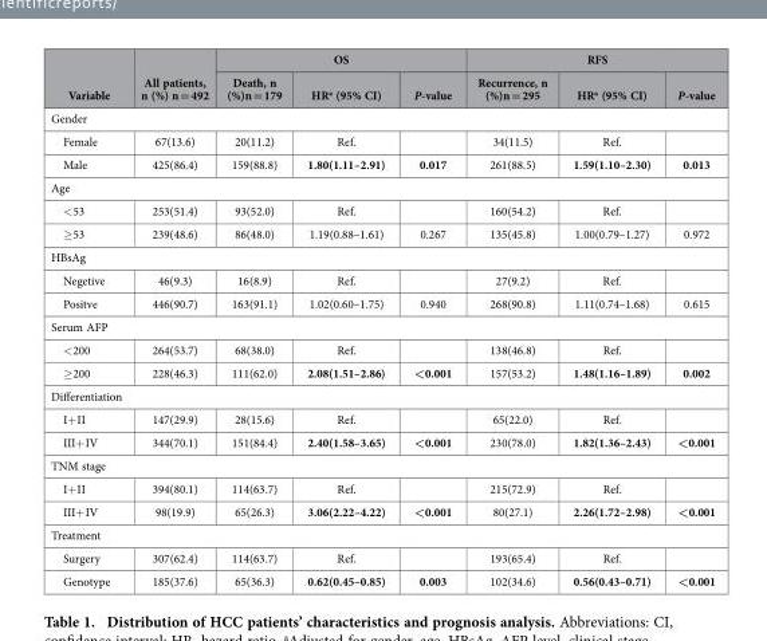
<table><thead><tr><td rowspan="2">Variable</td><td rowspan="2">All patients, n (%) n = 492</td><td colspan="3">OS</td><td colspan="3">RFS</td></tr><tr><td>Death, n (%)n = 179</td><td>HR<sup>a</sup> (95% CI)</td><td>P-value</td><td>Recurrence, n (%)n = 295</td><td>HR<sup>a</sup> (95% CI)</td><td>P-value</td></tr></thead><tbody><tr><td colspan="8">Gender</td></tr><tr><td>Female</td><td>67(13.6)</td><td>20(11.2)</td><td>Ref.</td><td></td><td>34(11.5)</td><td>Ref.</td><td></td></tr><tr><td>Male</td><td>425(86.4)</td><td>159(88.8)</td><td>1.80(1.11–2.91)</td><td>0.017</td><td>261(88.5)</td><td>1.59(1.10–2.30)</td><td>0.013</td></tr><tr><td colspan="8">Age</td></tr><tr><td>&lt; 53</td><td>253(51.4)</td><td>93(52.0)</td><td>Ref.</td><td></td><td>160(54.2)</td><td>Ref.</td><td></td></tr><tr><td>≥ 53</td><td>239(48.6)</td><td>86(48.0)</td><td>1.19(0.88–1.61)</td><td>0.267</td><td>135(45.8)</td><td>1.00(0.79–1.27)</td><td>0.972</td></tr><tr><td colspan="8">HBsAg</td></tr><tr><td>Negetive</td><td>46(9.3)</td><td>16(8.9)</td><td>Ref.</td><td></td><td>27(9.2)</td><td>Ref.</td><td></td></tr><tr><td>Positve</td><td>446(90.7)</td><td>163(91.1)</td><td>1.02(0.60–1.75)</td><td>0.940</td><td>268(90.8)</td><td>1.11(0.74–1.68)</td><td>0.615</td></tr><tr><td colspan="8">Serum AFP</td></tr><tr><td>&lt; 200</td><td>264(53.7)</td><td>68(38.0)</td><td>Ref.</td><td></td><td>138(46.8)</td><td>Ref.</td><td></td></tr><tr><td>≥ 200</td><td>228(46.3)</td><td>111(62.0)</td><td>2.08(1.51–2.86)</td><td>&lt;0.001</td><td>157(53.2)</td><td>1.48(1.16–1.89)</td><td>0.002</td></tr><tr><td colspan="8">Differentiation</td></tr><tr><td>I+ II</td><td>147(29.9)</td><td>28(15.6)</td><td>Ref.</td><td></td><td>65(22.0)</td><td>Ref.</td><td></td></tr><tr><td>III+ IV</td><td>344(70.1)</td><td>151(84.4)</td><td>2.40(1.58–3.65)</td><td>&lt;0.001</td><td>230(78.0)</td><td>1.82(1.36–2.43)</td><td>&lt;0.001</td></tr><tr><td colspan="8">TNM stage</td></tr><tr><td>I+ II</td><td>394(80.1)</td><td>114(63.7)</td><td>Ref.</td><td></td><td>215(72.9)</td><td>Ref.</td><td></td></tr><tr><td>III+ IV</td><td>98(19.9)</td><td>65(26.3)</td><td>3.06(2.22–4.22)</td><td>&lt;0.001</td><td>80(27.1)</td><td>2.26(1.72–2.98)</td><td>&lt;0.001</td></tr><tr><td colspan="8">Treatment</td></tr><tr><td>Surgery</td><td>307(62.4)</td><td>114(63.7)</td><td>Ref.</td><td></td><td>193(65.4)</td><td>Ref.</td><td></td></tr><tr><td>Genotype</td><td>185(37.6)</td><td>65(36.3)</td><td>0.62(0.45–0.85)</td><td>0.003</td><td>102(34.6)</td><td>0.56(0.43–0.71)</td><td>&lt;0.001</td></tr></tbody></table>